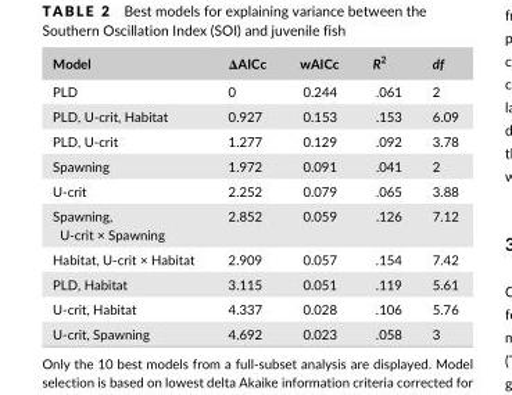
<table><thead><tr><td>Model</td><td>ΔAICc</td><td>wAICc</td><td>R<sup>2</sup></td><td>df</td></tr></thead><tbody><tr><td>PLD</td><td>0</td><td>0.244</td><td>.061</td><td>2</td></tr><tr><td>PLD, U- crit, Habitat</td><td>0.927</td><td>0.153</td><td>.153</td><td>6.09</td></tr><tr><td>PLD, U- crit</td><td>1.277</td><td>0.129</td><td>.092</td><td>3.78</td></tr><tr><td>Spawning</td><td>1.972</td><td>0.091</td><td>.041</td><td>2</td></tr><tr><td>U- crit</td><td>2.252</td><td>0.079</td><td>.065</td><td>3.88</td></tr><tr><td>Spawning, U- crit × Spawning</td><td>2.852</td><td>0.059</td><td>.126</td><td>7.12</td></tr><tr><td>Habitat, U- crit × Habitat</td><td>2.909</td><td>0.057</td><td>.154</td><td>7.42</td></tr><tr><td>PLD, Habitat</td><td>3.115</td><td>0.051</td><td>.119</td><td>5.61</td></tr><tr><td>U- crit, Habitat</td><td>4.337</td><td>0.028</td><td>.106</td><td>5.76</td></tr><tr><td>U- crit, Spawning</td><td>4.692</td><td>0.023</td><td>.058</td><td>3</td></tr></tbody></table>